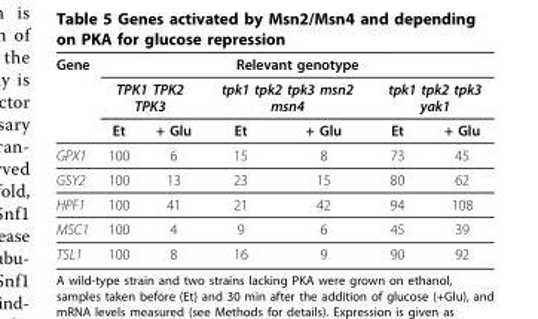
<table><thead><tr><td rowspan="3">Gene</td><td colspan="6">Relevant genotype</td></tr><tr><td colspan="2">TPK1 TPK2 TPK3</td><td colspan="2">tpk1 tpk2 tpk3 msn2 msn4</td><td colspan="2">tpk1 tpk2 tpk3 yak1</td></tr><tr><td>Et</td><td>+ Glu</td><td>Et</td><td>+ Glu</td><td>Et</td><td>+ Glu</td></tr></thead><tbody><tr><td>GPX1</td><td>100</td><td>6</td><td>15</td><td>8</td><td>73</td><td>45</td></tr><tr><td>GSY2</td><td>100</td><td>13</td><td>23</td><td>15</td><td>80</td><td>62</td></tr><tr><td>HPF1</td><td>100</td><td>41</td><td>21</td><td>42</td><td>94</td><td>108</td></tr><tr><td>MSC1</td><td>100</td><td>4</td><td>9</td><td>6</td><td>45</td><td>39</td></tr><tr><td>TSL1</td><td>100</td><td>8</td><td>16</td><td>9</td><td>90</td><td>92</td></tr></tbody></table>